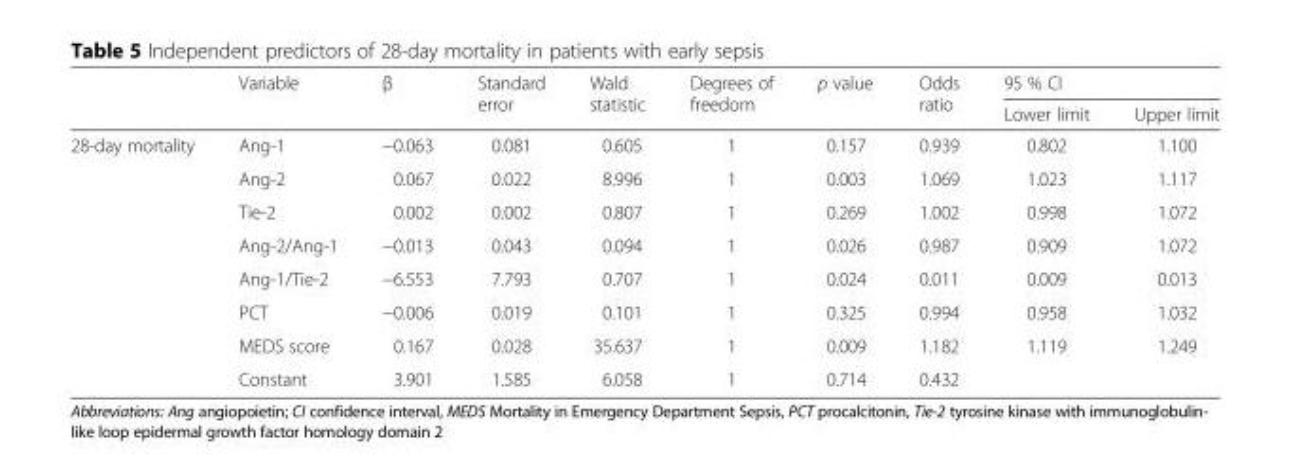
<table><thead><tr><td rowspan="2"></td><td rowspan="2">Variable</td><td rowspan="2">β</td><td rowspan="2">Standard error</td><td rowspan="2">Wald statistic</td><td rowspan="2">Degrees of freedom</td><td rowspan="2">p value</td><td rowspan="2">Odds ratio</td><td colspan="2">95 % CI</td></tr><tr><td>Lower limit</td><td>Upper limit</td></tr></thead><tbody><tr><td rowspan="8">28-day mortality</td><td>Ang-1</td><td>−0.063</td><td>0.081</td><td>0.605</td><td>1</td><td>0.157</td><td>0.939</td><td>0.802</td><td>1.100</td></tr><tr><td>Ang-2</td><td>0.067</td><td>0.022</td><td>8.996</td><td>1</td><td>0.003</td><td>1.069</td><td>1.023</td><td>1.117</td></tr><tr><td>Tie-2</td><td>0.002</td><td>0.002</td><td>0.807</td><td>1</td><td>0.269</td><td>1.002</td><td>0.998</td><td>1.072</td></tr><tr><td>Ang-2/Ang-1</td><td>−0.013</td><td>0.043</td><td>0.094</td><td>1</td><td>0.026</td><td>0.987</td><td>0.909</td><td>1.072</td></tr><tr><td>Ang-1/Tie-2</td><td>−6.553</td><td>7.793</td><td>0.707</td><td>1</td><td>0.024</td><td>0.011</td><td>0.009</td><td>0.013</td></tr><tr><td>PCT</td><td>−0.006</td><td>0.019</td><td>0.101</td><td>1</td><td>0.325</td><td>0.994</td><td>0.958</td><td>1.032</td></tr><tr><td>MEDS score</td><td>0.167</td><td>0.028</td><td>35.637</td><td>1</td><td>0.009</td><td>1.182</td><td>1.119</td><td>1.249</td></tr><tr><td>Constant</td><td>3.901</td><td>1.585</td><td>6.058</td><td>1</td><td>0.714</td><td>0.432</td><td></td><td></td></tr></tbody></table>